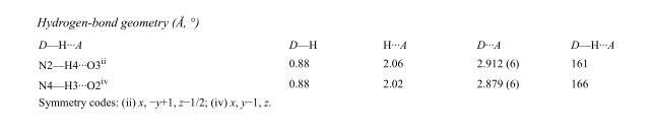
<table><tbody><tr><td>D—H···A</td><td>D—H</td><td>H···A</td><td>D···A</td><td>D—H···A</td></tr><tr><td>N2—H4···O3<sup>ii</sup></td><td>0.88</td><td>2.06</td><td>2.912 (6)</td><td>161</td></tr><tr><td>N4—H3···O2<sup>iv</sup></td><td>0.88</td><td>2.02</td><td>2.879 (6)</td><td>166</td></tr></tbody></table>